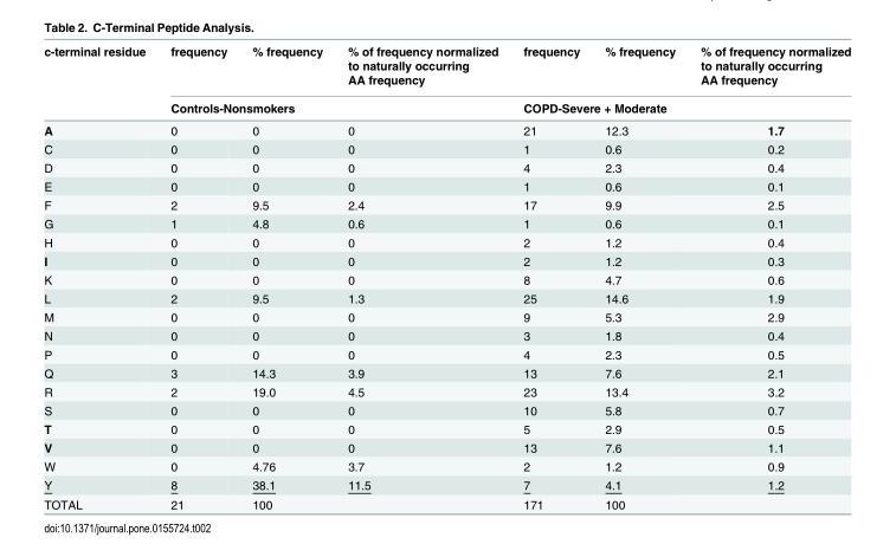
<table><thead><tr><td rowspan="2">c-terminal residue</td><td>frequency</td><td>% frequency</td><td>% of frequency normalized to naturally occurring AA frequency</td><td>frequency</td><td>% frequency</td><td>% of frequency normalized to naturally occurring AA frequency</td></tr><tr><td colspan="3">Controls-Nonsmokers</td><td colspan="3">COPD-Severe + Moderate</td></tr></thead><tbody><tr><td>A</td><td>0</td><td>0</td><td>0</td><td>21</td><td>12.3</td><td>1.7</td></tr><tr><td>C</td><td>0</td><td>0</td><td>0</td><td>1</td><td>0.6</td><td>0.2</td></tr><tr><td>D</td><td>0</td><td>0</td><td>0</td><td>4</td><td>2.3</td><td>0.4</td></tr><tr><td>E</td><td>0</td><td>0</td><td>0</td><td>1</td><td>0.6</td><td>0.1</td></tr><tr><td>F</td><td>2</td><td>9.5</td><td>2.4</td><td>17</td><td>9.9</td><td>2.5</td></tr><tr><td>G</td><td>1</td><td>4.8</td><td>0.6</td><td>1</td><td>0.6</td><td>0.1</td></tr><tr><td>H</td><td>0</td><td>0</td><td>0</td><td>2</td><td>1.2</td><td>0.4</td></tr><tr><td>I</td><td>0</td><td>0</td><td>0</td><td>2</td><td>1.2</td><td>0.3</td></tr><tr><td>K</td><td>0</td><td>0</td><td>0</td><td>8</td><td>4.7</td><td>0.6</td></tr><tr><td>L</td><td>2</td><td>9.5</td><td>1.3</td><td>25</td><td>14.6</td><td>1.9</td></tr><tr><td>M</td><td>0</td><td>0</td><td>0</td><td>9</td><td>5.3</td><td>2.9</td></tr><tr><td>N</td><td>0</td><td>0</td><td>0</td><td>3</td><td>1.8</td><td>0.4</td></tr><tr><td>P</td><td>0</td><td>0</td><td>0</td><td>4</td><td>2.3</td><td>0.5</td></tr><tr><td>Q</td><td>3</td><td>14.3</td><td>3.9</td><td>13</td><td>7.6</td><td>2.1</td></tr><tr><td>R</td><td>2</td><td>19.0</td><td>4.5</td><td>23</td><td>13.4</td><td>3.2</td></tr><tr><td>S</td><td>0</td><td>0</td><td>0</td><td>10</td><td>5.8</td><td>0.7</td></tr><tr><td>T</td><td>0</td><td>0</td><td>0</td><td>5</td><td>2.9</td><td>0.5</td></tr><tr><td>V</td><td>0</td><td>0</td><td>0</td><td>13</td><td>7.6</td><td>1.1</td></tr><tr><td>W</td><td>0</td><td>4.76</td><td>3.7</td><td>2</td><td>1.2</td><td>0.9</td></tr><tr><td>Y</td><td>8</td><td>38.1</td><td>11.5</td><td>7</td><td>4.1</td><td>1.2</td></tr><tr><td>TOTAL</td><td>21</td><td>100</td><td></td><td>171</td><td>100</td><td></td></tr></tbody></table>